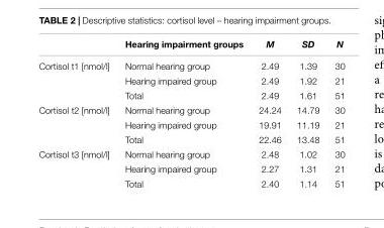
<table><thead><tr><td></td><td>Hearing impairment groups</td><td>M</td><td>SD</td><td>N</td></tr></thead><tbody><tr><td rowspan="3">Cortisol t1 [nmol/l]</td><td>Normal hearing group</td><td>2.49</td><td>1.39</td><td>30</td></tr><tr><td>Hearing impaired group</td><td>2.49</td><td>1.92</td><td>21</td></tr><tr><td>Total</td><td>2.49</td><td>1.61</td><td>51</td></tr><tr><td rowspan="3">Cortisol t2 [nmol/l]</td><td>Normal hearing group</td><td>24.24</td><td>14.79</td><td>30</td></tr><tr><td>Hearing impaired group</td><td>19.91</td><td>11.19</td><td>21</td></tr><tr><td>Total</td><td>22.46</td><td>13.48</td><td>51</td></tr><tr><td rowspan="3">Cortisol t3 [nmol/l]</td><td>Normal hearing group</td><td>2.48</td><td>1.02</td><td>30</td></tr><tr><td>Hearing impaired group</td><td>2.27</td><td>1.31</td><td>21</td></tr><tr><td>Total</td><td>2.40</td><td>1.14</td><td>51</td></tr></tbody></table>